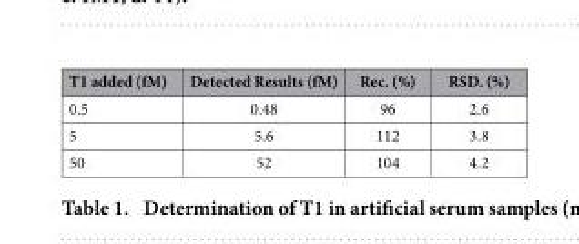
<table><thead><tr><td>T1 added (fM)</td><td>Detected Results (fM)</td><td>Rec. (%)</td><td>RSD. (%)</td></tr></thead><tbody><tr><td>0.5</td><td>0.48</td><td>96</td><td>2.6</td></tr><tr><td>5</td><td>5.6</td><td>112</td><td>3.8</td></tr><tr><td>50</td><td>52</td><td>104</td><td>4.2</td></tr></tbody></table>